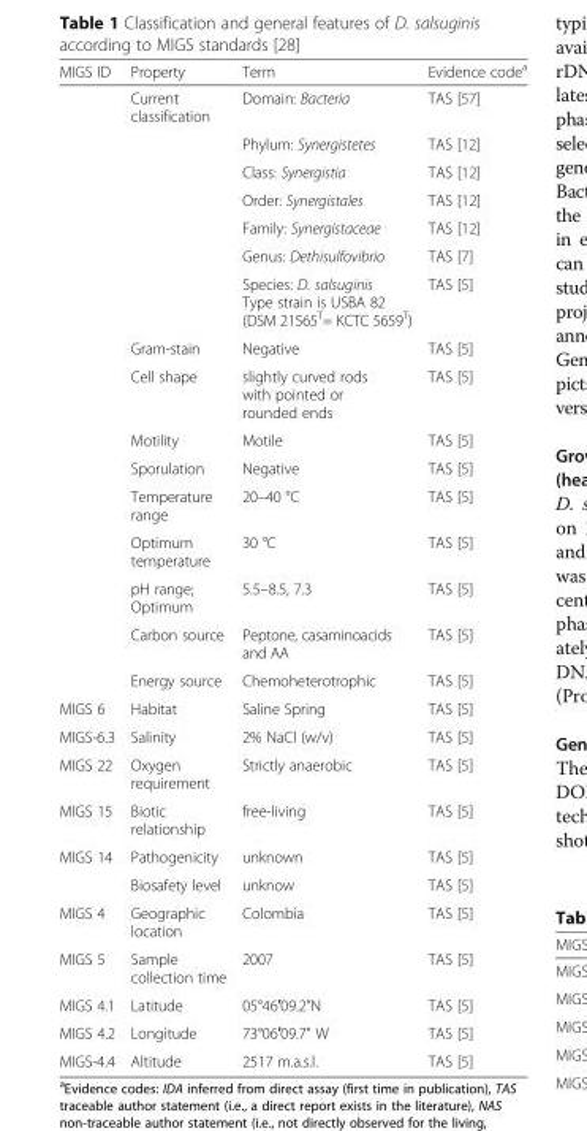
<table><thead><tr><td>MIGS ID</td><td>Property</td><td>Term</td><td>Evidence code<sup>a</sup></td></tr></thead><tbody><tr><td></td><td>Current classification</td><td>Domain: Bacteria</td><td>TAS [57]</td></tr><tr><td></td><td></td><td>Phylum: Synergistetes</td><td>TAS [12]</td></tr><tr><td></td><td></td><td>Class: Synergistia</td><td>TAS [12]</td></tr><tr><td></td><td></td><td>Order: Synergistales</td><td>TAS [12]</td></tr><tr><td></td><td></td><td>Family: Synergistaceae</td><td>TAS [12]</td></tr><tr><td></td><td></td><td>Genus: Dethisulfovibrio</td><td>TAS [7]</td></tr><tr><td></td><td></td><td>Species: D. salsuginis Type strain is USBA 82 (DSM 21565<sup>T</sup>= KCTC 5659<sup>T</sup>)</td><td>TAS [5]</td></tr><tr><td></td><td>Gram-stain</td><td>Negative</td><td>TAS [5]</td></tr><tr><td></td><td>Cell shape</td><td>slightly curved rods with pointed or rounded ends</td><td>TAS [5]</td></tr><tr><td></td><td>Motility</td><td>Motile</td><td>TAS [5]</td></tr><tr><td></td><td>Sporulation</td><td>Negative</td><td>TAS [5]</td></tr><tr><td></td><td>Temperature range</td><td>20–40 °C</td><td>TAS [5]</td></tr><tr><td></td><td>Optimum temperature</td><td>30 °C</td><td>TAS [5]</td></tr><tr><td></td><td>pH range; Optimum</td><td>5.5–8.5, 7.3</td><td>TAS [5]</td></tr><tr><td></td><td>Carbon source</td><td>Peptone, casaminoacids and AA</td><td>TAS [5]</td></tr><tr><td></td><td>Energy source</td><td>Chemoheterotrophic</td><td>TAS [5]</td></tr><tr><td>MIGS 6</td><td>Habitat</td><td>Saline Spring</td><td>TAS [5]</td></tr><tr><td>MIGS-6.3</td><td>Salinity</td><td>2% NaCl (w/v)</td><td>TAS [5]</td></tr><tr><td>MIGS 22</td><td>Oxygen requirement</td><td>Strictly anaerobic</td><td>TAS [5]</td></tr><tr><td>MIGS 15</td><td>Biotic relationship</td><td>free-living</td><td>TAS [5]</td></tr><tr><td rowspan="2">MIGS 14</td><td>Pathogenicity</td><td>unknown</td><td>TAS [5]</td></tr><tr><td>Biosafety level</td><td>unknow</td><td>TAS [5]</td></tr><tr><td>MIGS 4</td><td>Geographic location</td><td>Colombia</td><td>TAS [5]</td></tr><tr><td>MIGS 5</td><td>Sample collection time</td><td>2007</td><td>TAS [5]</td></tr><tr><td>MIGS 4.1</td><td>Latitude</td><td>05°46′09.2”N</td><td>TAS [5]</td></tr><tr><td>MIGS 4.2</td><td>Longitude</td><td>73°06′09.7” W</td><td>TAS [5]</td></tr><tr><td>MIGS-4.4</td><td>Altitude</td><td>2517 m.a.s.l.</td><td>TAS [5]</td></tr></tbody></table>